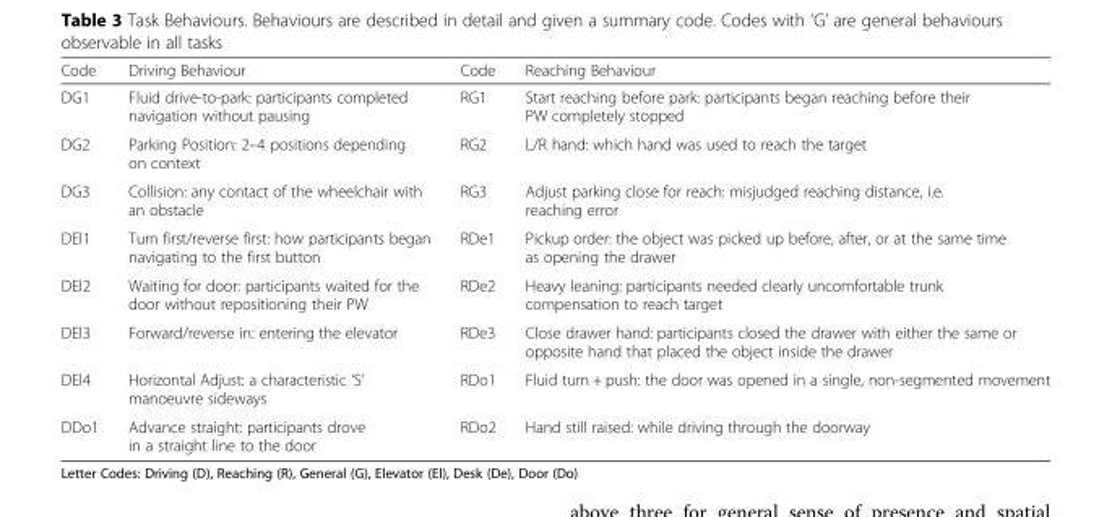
<table><thead><tr><td>Code</td><td>Driving Behaviour</td><td>Code</td><td>Reaching Behaviour</td></tr></thead><tbody><tr><td>DG1</td><td>Fluid drive-to-park: participants completed navigation without pausing</td><td>RG1</td><td>Start reaching before park: participants began reaching before their PW completely stopped</td></tr><tr><td>DG2</td><td>Parking Position: 2–4 positions depending on context</td><td>RG2</td><td>L/R hand: which hand was used to reach the target</td></tr><tr><td>DG3</td><td>Collision: any contact of the wheelchair with an obstacle</td><td>RG3</td><td>Adjust parking close for reach: misjudged reaching distance, i.e. reaching error</td></tr><tr><td>DEl1</td><td>Turn first/reverse first: how participants began navigating to the first button</td><td>RDe1</td><td>Pickup order: the object was picked up before, after, or at the same time as opening the drawer</td></tr><tr><td>DEl2</td><td>Waiting for door: participants waited for the door without repositioning their PW</td><td>RDe2</td><td>Heavy leaning: participants needed clearly uncomfortable trunk compensation to reach target</td></tr><tr><td>DEl3</td><td>Forward/reverse in: entering the elevator</td><td>RDe3</td><td>Close drawer hand: participants closed the drawer with either the same or opposite hand that placed the object inside the drawer</td></tr><tr><td>DEl4</td><td>Horizontal Adjust: a characteristic ‘S’ manoeuvre sideways</td><td>RDo1</td><td>Fluid turn + push: the door was opened in a single, non-segmented movement</td></tr><tr><td>DDo1</td><td>Advance straight: participants drove in a straight line to the door</td><td>RDo2</td><td>Hand still raised: while driving through the doorway</td></tr></tbody></table>